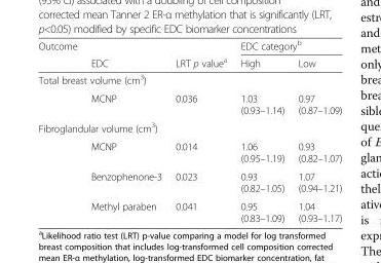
<table><thead><tr><td rowspan="2">Outcome</td><td rowspan="2">EDC</td><td rowspan="2">LRT p value<sup>a</sup></td><td colspan="2">EDC category<sup>b</sup></td></tr><tr><td>High</td><td>Low</td></tr></thead><tbody><tr><td colspan="5">Total breast volume (cm<sup>3</sup>)</td></tr><tr><td></td><td>MCNP</td><td>0.036</td><td>1.03 (0.93–1.14)</td><td>0.97 (0.87–1.09)</td></tr><tr><td colspan="5">Fibroglandular volume (cm<sup>3</sup>)</td></tr><tr><td></td><td>MCNP</td><td>0.014</td><td>1.06 (0.95–1.19)</td><td>0.93 (0.82–1.07)</td></tr><tr><td></td><td>Benzophenone-3</td><td>0.023</td><td>0.93 (0.82–1.05)</td><td>1.07 (0.94–1.21)</td></tr><tr><td></td><td>Methyl paraben</td><td>0.041</td><td>0.95 (0.83–1.09)</td><td>1.04 (0.93–1.17)</td></tr></tbody></table>